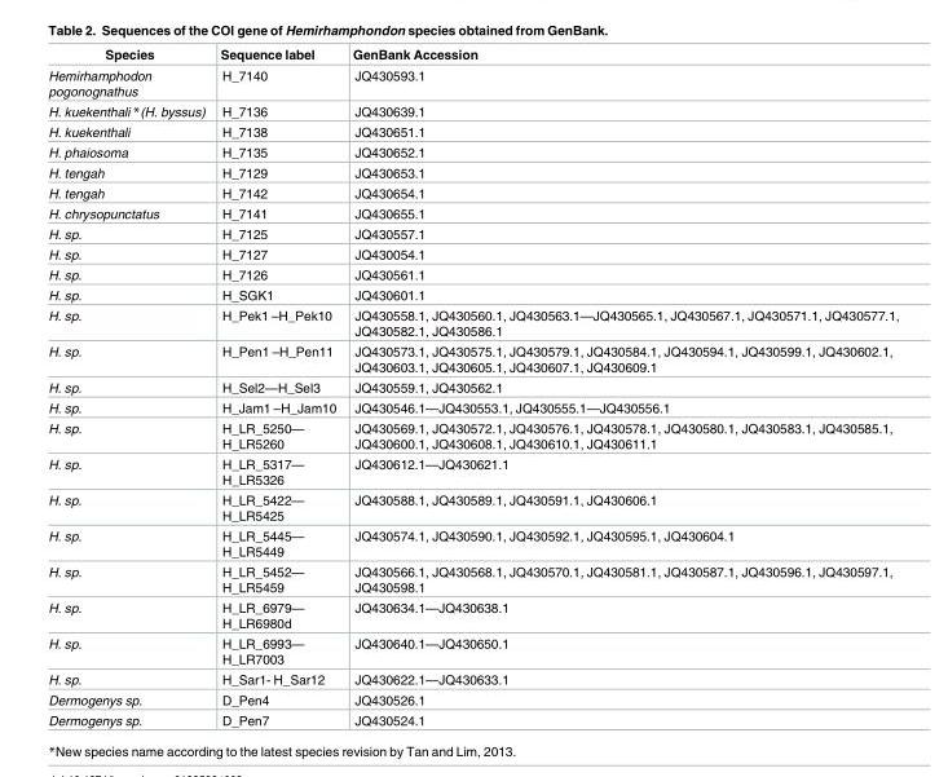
<table><thead><tr><td>Species</td><td>Sequence label</td><td>GenBank Accession</td></tr></thead><tbody><tr><td>Hemirhamphodon pogonognathus</td><td>H_7140</td><td>JQ430593.1</td></tr><tr><td>H. kuekenthali *(H. byssus)</td><td>H_7136</td><td>JQ430639.1</td></tr><tr><td>H. kuekenthali</td><td>H_7138</td><td>JQ430651.1</td></tr><tr><td>H. phaiosoma</td><td>H_7135</td><td>JQ430652.1</td></tr><tr><td>H. tengah</td><td>H_7129</td><td>JQ430653.1</td></tr><tr><td>H. tengah</td><td>H_7142</td><td>JQ430654.1</td></tr><tr><td>H. chrysopunctatus</td><td>H_7141</td><td>JQ430655.1</td></tr><tr><td>H. sp.</td><td>H_7125</td><td>JQ430557.1</td></tr><tr><td>H. sp.</td><td>H_7127</td><td>JQ430054.1</td></tr><tr><td>H. sp.</td><td>H_7126</td><td>JQ430561.1</td></tr><tr><td>H. sp.</td><td>H_SGK1</td><td>JQ430601.1</td></tr><tr><td>H. sp.</td><td>H_Pek1 –H_Pek10</td><td>JQ430558.1, JQ430560.1, JQ430563.1—JQ430565.1, JQ430567.1, JQ430571.1, JQ430577.1, JQ430582.1, JQ430586.1</td></tr><tr><td>H. sp.</td><td>H_Pen1 –H_Pen11</td><td>JQ430573.1, JQ430575.1, JQ430579.1, JQ430584.1, JQ430594.1, JQ430599.1, JQ430602.1, JQ430603.1, JQ430605.1, JQ430607.1, JQ430609.1</td></tr><tr><td>H. sp.</td><td>H_Sel2—H_Sel3</td><td>JQ430559.1, JQ430562.1</td></tr><tr><td>H. sp.</td><td>H_Jam1 –H_Jam10</td><td>JQ430546.1—JQ430553.1, JQ430555.1—JQ430556.1</td></tr><tr><td>H. sp.</td><td>H_LR_5250— H_LR5260</td><td>JQ430569.1, JQ430572.1, JQ430576.1, JQ430578.1, JQ430580.1, JQ430583.1, JQ430585.1, JQ430600.1, JQ430608.1, JQ430610.1, JQ430611.1</td></tr><tr><td>H. sp.</td><td>H_LR_5317— H_LR5326</td><td>JQ430612.1—JQ430621.1</td></tr><tr><td>H. sp.</td><td>H_LR_5422— H_LR5425</td><td>JQ430588.1, JQ430589.1, JQ430591.1, JQ430606.1</td></tr><tr><td>H. sp.</td><td>H_LR_5445— H_LR5449</td><td>JQ430574.1, JQ430590.1, JQ430592.1, JQ430595.1, JQ430604.1</td></tr><tr><td>H. sp.</td><td>H_LR_5452— H_LR5459</td><td>JQ430566.1, JQ430568.1, JQ430570.1, JQ430581.1, JQ430587.1, JQ430596.1, JQ430597.1, JQ430598.1</td></tr><tr><td>H. sp.</td><td>H_LR_6979— H_LR6980d</td><td>JQ430634.1—JQ430638.1</td></tr><tr><td>H. sp.</td><td>H_LR_6993— H_LR7003</td><td>JQ430640.1—JQ430650.1</td></tr><tr><td>H. sp.</td><td>H_Sar1- H_Sar12</td><td>JQ430622.1—JQ430633.1</td></tr><tr><td>Dermogenys sp.</td><td>D_Pen4</td><td>JQ430526.1</td></tr><tr><td>Dermogenys sp.</td><td>D_Pen7</td><td>JQ430524.1</td></tr></tbody></table>